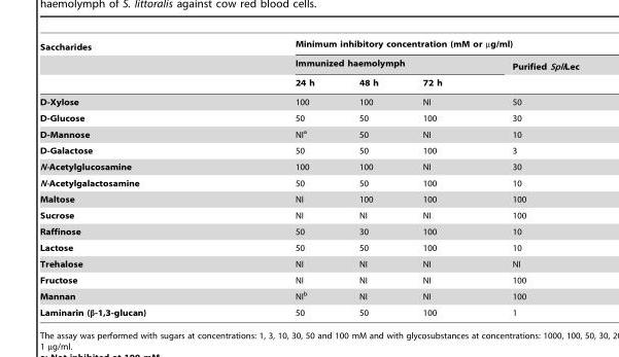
<table><thead><tr><td rowspan="3">Saccharides</td><td colspan="4">Minimum inhibitory concentration (mM or µg/ml)</td></tr><tr><td colspan="3">Immunized haemolymph</td><td rowspan="2">Purified SpliLec</td></tr><tr><td>24 h</td><td>48 h</td><td>72 h</td></tr></thead><tbody><tr><td>D-Xylose</td><td>100</td><td>100</td><td>NI</td><td>50</td></tr><tr><td>D-Glucose</td><td>50</td><td>50</td><td>100</td><td>30</td></tr><tr><td>D-Mannose</td><td>NI<sup>a</sup></td><td>50</td><td>NI</td><td>10</td></tr><tr><td>D-Galactose</td><td>50</td><td>50</td><td>100</td><td>3</td></tr><tr><td>N-Acetylglucosamine</td><td>100</td><td>100</td><td>NI</td><td>30</td></tr><tr><td>N-Acetylgalactosamine</td><td>50</td><td>50</td><td>100</td><td>10</td></tr><tr><td>Maltose</td><td>NI</td><td>100</td><td>100</td><td>100</td></tr><tr><td>Sucrose</td><td>NI</td><td>NI</td><td>NI</td><td>100</td></tr><tr><td>Raffinose</td><td>50</td><td>30</td><td>100</td><td>10</td></tr><tr><td>Lactose</td><td>50</td><td>50</td><td>100</td><td>10</td></tr><tr><td>Trehalose</td><td>NI</td><td>NI</td><td>NI</td><td>NI</td></tr><tr><td>Fructose</td><td>NI</td><td>NI</td><td>NI</td><td>100</td></tr><tr><td>Mannan</td><td>NI<sup>b</sup></td><td>NI</td><td>NI</td><td>100</td></tr><tr><td>Laminarin (β-1,3-glucan)</td><td>50</td><td>50</td><td>100</td><td>1</td></tr></tbody></table>